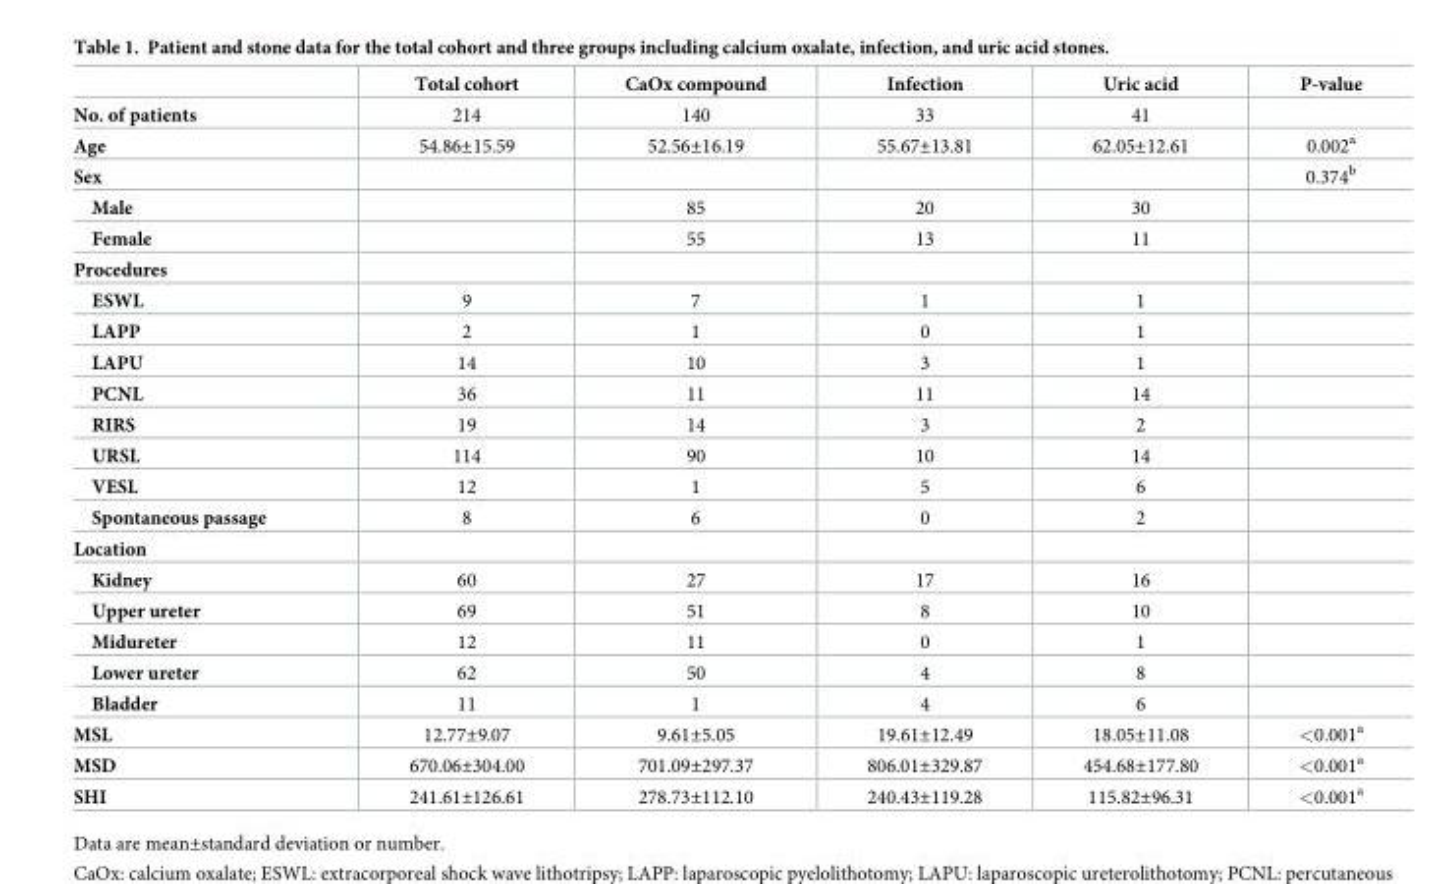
<table><thead><tr><td></td><td>Total cohort</td><td>CaOx compound</td><td>Infection</td><td>Uric acid</td><td>P-value</td></tr></thead><tbody><tr><td>No. of patients</td><td>214</td><td>140</td><td>33</td><td>41</td><td></td></tr><tr><td>Age</td><td>54.86±15.59</td><td>52.56±16.19</td><td>55.67±13.81</td><td>62.05±12.61</td><td>0.002<sup>a</sup></td></tr><tr><td>Sex</td><td></td><td></td><td></td><td></td><td>0.374<sup>b</sup></td></tr><tr><td>Male</td><td></td><td>85</td><td>20</td><td>30</td><td></td></tr><tr><td>Female</td><td></td><td>55</td><td>13</td><td>11</td><td></td></tr><tr><td colspan="6">Procedures</td></tr><tr><td>ESWL</td><td>9</td><td>7</td><td>1</td><td>1</td><td></td></tr><tr><td>LAPP</td><td>2</td><td>1</td><td>0</td><td>1</td><td></td></tr><tr><td>LAPU</td><td>14</td><td>10</td><td>3</td><td>1</td><td></td></tr><tr><td>PCNL</td><td>36</td><td>11</td><td>11</td><td>14</td><td></td></tr><tr><td>RIRS</td><td>19</td><td>14</td><td>3</td><td>2</td><td></td></tr><tr><td>URSL</td><td>114</td><td>90</td><td>10</td><td>14</td><td></td></tr><tr><td>VESL</td><td>12</td><td>1</td><td>5</td><td>6</td><td></td></tr><tr><td>Spontaneous passage</td><td>8</td><td>6</td><td>0</td><td>2</td><td></td></tr><tr><td colspan="6">Location</td></tr><tr><td>Kidney</td><td>60</td><td>27</td><td>17</td><td>16</td><td></td></tr><tr><td>Upper ureter</td><td>69</td><td>51</td><td>8</td><td>10</td><td></td></tr><tr><td>Midureter</td><td>12</td><td>11</td><td>0</td><td>1</td><td></td></tr><tr><td>Lower ureter</td><td>62</td><td>50</td><td>4</td><td>8</td><td></td></tr><tr><td>Bladder</td><td>11</td><td>1</td><td>4</td><td>6</td><td></td></tr><tr><td>MSL</td><td>12.77±9.07</td><td>9.61±5.05</td><td>19.61±12.49</td><td>18.05±11.08</td><td>&lt;0.001<sup>a</sup></td></tr><tr><td>MSD</td><td>670.06±304.00</td><td>701.09±297.37</td><td>806.01±329.87</td><td>454.68±177.80</td><td>&lt;0.001<sup>a</sup></td></tr><tr><td>SHI</td><td>241.61±126.61</td><td>278.73±112.10</td><td>240.43±119.28</td><td>115.82±96.31</td><td>&lt;0.001<sup>a</sup></td></tr></tbody></table>